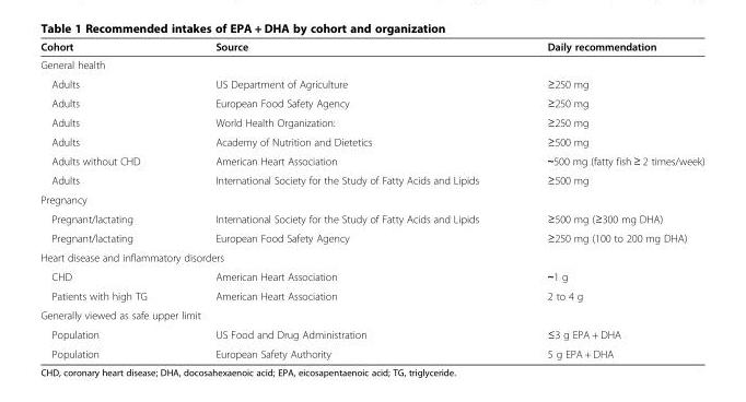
<table><thead><tr><td>Cohort</td><td>Source</td><td>Daily recommendation</td></tr></thead><tbody><tr><td colspan="3">General health</td></tr><tr><td>Adults</td><td>US Department of Agriculture</td><td>≥250 mg</td></tr><tr><td>Adults</td><td>European Food Safety Agency</td><td>≥250 mg</td></tr><tr><td>Adults</td><td>World Health Organization:</td><td>≥250 mg</td></tr><tr><td>Adults</td><td>Academy of Nutrition and Dietetics</td><td>≥500 mg</td></tr><tr><td>Adults without CHD</td><td>American Heart Association</td><td>∼500 mg (fatty fish ≥ 2 times/week)</td></tr><tr><td>Adults</td><td>International Society for the Study of Fatty Acids and Lipids</td><td>≥500 mg</td></tr><tr><td colspan="3">Pregnancy</td></tr><tr><td>Pregnant/lactating</td><td>International Society for the Study of Fatty Acids and Lipids</td><td>≥500 mg (≥300 mg DHA)</td></tr><tr><td>Pregnant/lactating</td><td>European Food Safety Agency</td><td>≥250 mg (100 to 200 mg DHA)</td></tr><tr><td colspan="3">Heart disease and inflammatory disorders</td></tr><tr><td>CHD</td><td>American Heart Association</td><td>∼1 g</td></tr><tr><td>Patients with high TG</td><td>American Heart Association</td><td>2 to 4 g</td></tr><tr><td colspan="3">Generally viewed as safe upper limit</td></tr><tr><td>Population</td><td>US Food and Drug Administration</td><td>≤3 g EPA + DHA</td></tr><tr><td>Population</td><td>European Safety Authority</td><td>5 g EPA + DHA</td></tr></tbody></table>